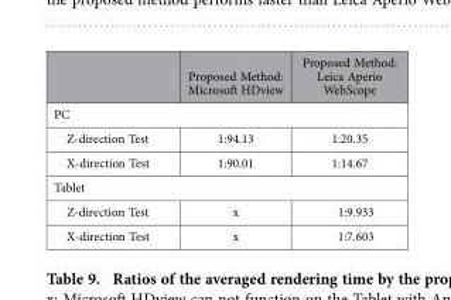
<table><thead><tr><td></td><td>Proposed Method: Microsoft HDview</td><td>Proposed Method: Leica Aperio WebScope</td></tr></thead><tbody><tr><td colspan="3">PC</td></tr><tr><td>Z-direction Test</td><td>1:94.13</td><td>1:20.35</td></tr><tr><td>X-direction Test</td><td>1:90.01</td><td>1:14.67</td></tr><tr><td colspan="3">Tablet</td></tr><tr><td>Z-direction Test</td><td>x</td><td>1:9.933</td></tr><tr><td>X-direction Test</td><td>x</td><td>1:7.603</td></tr></tbody></table>